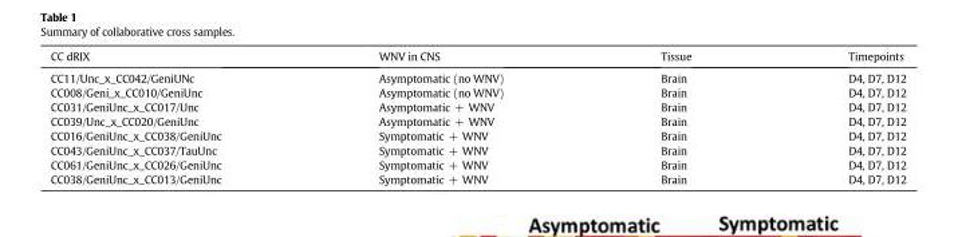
<table><thead><tr><td>CC dRIX</td><td>WNV in CNS</td><td>Tissue</td><td>Timepoints</td></tr></thead><tbody><tr><td>CC11/Unc_x_CC042/GeniUNc</td><td>Asymptomatic (no WNV)</td><td>Brain</td><td>D4, D7, D12</td></tr><tr><td>CC008/Geni_x_CC010/GeniUnc</td><td>Asymptomatic (no WNV)</td><td>Brain</td><td>D4, D7, D12</td></tr><tr><td>CC031/GeniUnc_x_CC017/Unc</td><td>Asymptomatic + WNV</td><td>Brain</td><td>D4, D7, D12</td></tr><tr><td>CC039/Unc_x_CC020/GeniUnc</td><td>Asymptomatic + WNV</td><td>Brain</td><td>D4, D7, D12</td></tr><tr><td>CC016/GeniUnc_x_CC038/GeniUnc</td><td>Symptomatic + WNV</td><td>Brain</td><td>D4, D7, D12</td></tr><tr><td>CC043/GeniUnc_x_CC037/TauUnc</td><td>Symptomatic + WNV</td><td>Brain</td><td>D4, D7, D12</td></tr><tr><td>CC061/GeniUnc_x_CC026/GeniUnc</td><td>Symptomatic + WNV</td><td>Brain</td><td>D4, D7, D12</td></tr><tr><td>CC038/GeniUnc_x_CC013/GeniUnc</td><td>Symptomatic + WNV</td><td>Brain</td><td>D4, D7, D12</td></tr></tbody></table>